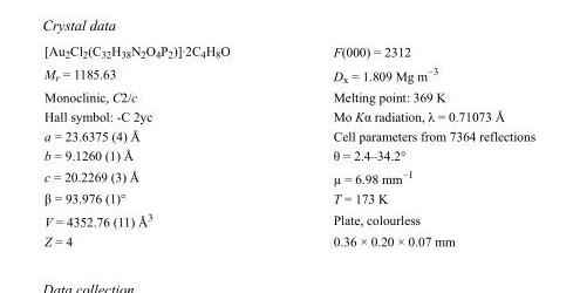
<table><tbody><tr><td>[Au<sub>2</sub>Cl<sub>2</sub>(C<sub>32</sub>H<sub>38</sub>N<sub>2</sub>O<sub>4</sub>P<sub>2</sub>)]·2C<sub>4</sub>H<sub>8</sub>O</td><td>F(000) = 2312</td></tr><tr><td>M<sub>r</sub> = 1185.63</td><td>D<sub>x</sub> = 1.809 Mg m<sup>−3</sup></td></tr><tr><td>Monoclinic, C2/c</td><td>Melting point: 369 K</td></tr><tr><td>Hall symbol: -C 2yc</td><td>Mo Kα radiation, λ = 0.71073 Å</td></tr><tr><td>a = 23.6375 (4) Å</td><td>Cell parameters from 7364 reflections</td></tr><tr><td>b = 9.1260 (1) Å</td><td>θ = 2.4–34.2°</td></tr><tr><td>c = 20.2269 (3) Å</td><td>µ = 6.98 mm<sup>−1</sup></td></tr><tr><td>β = 93.976 (1)°</td><td>T = 173 K</td></tr><tr><td>V = 4352.76 (11) Å<sup>3</sup></td><td>Plate, colourless</td></tr><tr><td>Z = 4</td><td>0.36 × 0.20 × 0.07 mm</td></tr></tbody></table>